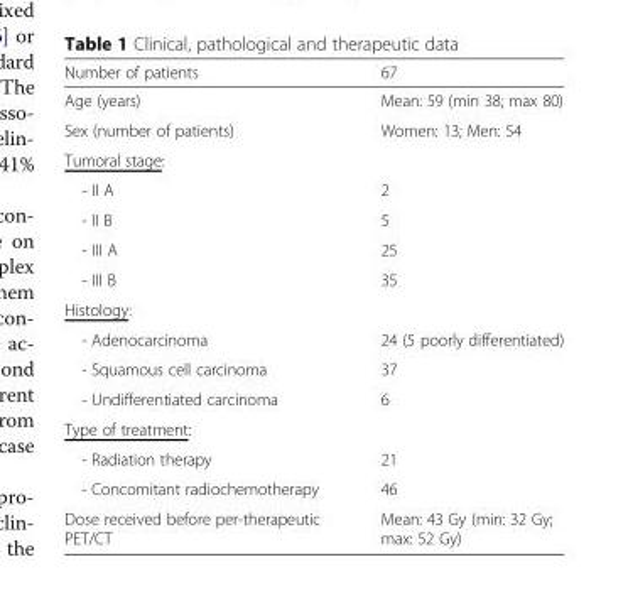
<table><thead><tr><td>Number of patients</td><td>67</td></tr></thead><tbody><tr><td>Age (years)</td><td>Mean: 59 (min 38; max 80)</td></tr><tr><td>Sex (number of patients)</td><td>Women: 13; Men: 54</td></tr><tr><td colspan="2">Tumoral stage:</td></tr><tr><td>- II A</td><td>2</td></tr><tr><td>- II B</td><td>5</td></tr><tr><td>- III A</td><td>25</td></tr><tr><td>- III B</td><td>35</td></tr><tr><td colspan="2">Histology:</td></tr><tr><td>- Adenocarcinoma</td><td>24 (5 poorly differentiated)</td></tr><tr><td>- Squamous cell carcinoma</td><td>37</td></tr><tr><td>- Undifferentiated carcinoma</td><td>6</td></tr><tr><td colspan="2">Type of treatment:</td></tr><tr><td>- Radiation therapy</td><td>21</td></tr><tr><td>- Concomitant radiochemotherapy</td><td>46</td></tr><tr><td>Dose received before per-therapeutic PET/CT</td><td>Mean: 43 Gy (min: 32 Gy; max: 52 Gy)</td></tr></tbody></table>